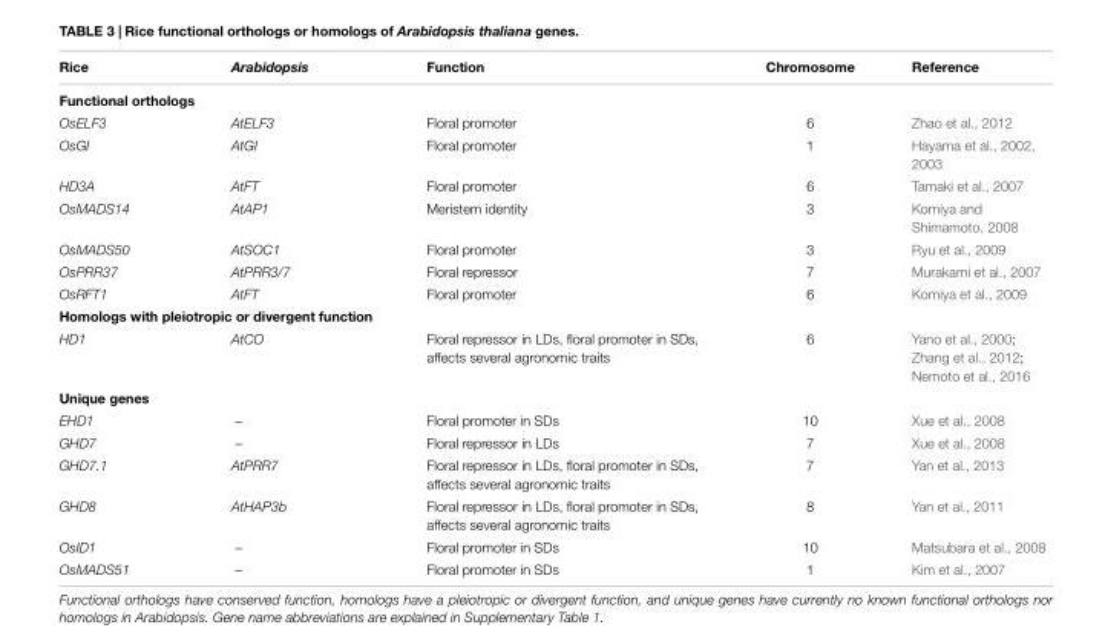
<table><thead><tr><td>Rice</td><td>Arabidopsis</td><td>Function</td><td>Chromosome</td><td>Reference</td></tr></thead><tbody><tr><td colspan="5">Functional orthologs</td></tr><tr><td>OsELF3</td><td>AtELF3</td><td>Floral promoter</td><td>6</td><td>Zhao et al., 2012</td></tr><tr><td>OsGI</td><td>AtGI</td><td>Floral promoter</td><td>1</td><td>Hayama et al., 2002, 2003</td></tr><tr><td>HD3A</td><td>AtFT</td><td>Floral promoter</td><td>6</td><td>Tamaki et al., 2007</td></tr><tr><td>OsMADS14</td><td>AtAP1</td><td>Meristem identity</td><td>3</td><td>Komiya and Shimamoto, 2008</td></tr><tr><td>OsMADS50</td><td>AtSOC1</td><td>Floral promoter</td><td>3</td><td>Ryu et al., 2009</td></tr><tr><td>OsPRR37</td><td>AtPRR3/7</td><td>Floral repressor</td><td>7</td><td>Murakami et al., 2007</td></tr><tr><td>OsRFT1</td><td>AtFT</td><td>Floral promoter</td><td>6</td><td>Komiya et al., 2009</td></tr><tr><td colspan="5">Homologs with pleiotropic or divergent function</td></tr><tr><td>HD1</td><td>AtCO</td><td>Floral repressor in LDs, floral promoter in SDs, affects several agronomic traits</td><td>6</td><td>Yano et al., 2000; Zhang et al., 2012; Nemoto et al., 2016</td></tr><tr><td colspan="5">Unique genes</td></tr><tr><td>EHD1</td><td>–</td><td>Floral promoter in SDs</td><td>10</td><td>Xue et al., 2008</td></tr><tr><td>GHD7</td><td>–</td><td>Floral repressor in LDs</td><td>7</td><td>Xue et al., 2008</td></tr><tr><td>GHD7.1</td><td>AtPRR7</td><td>Floral repressor in LDs, floral promoter in SDs, affects several agronomic traits</td><td>7</td><td>Yan et al., 2013</td></tr><tr><td>GHD8</td><td>AtHAP3b</td><td>Floral repressor in LDs, floral promoter in SDs, affects several agronomic traits</td><td>8</td><td>Yan et al., 2011</td></tr><tr><td>OsID1</td><td>–</td><td>Floral promoter in SDs</td><td>10</td><td>Matsubara et al., 2008</td></tr><tr><td>OsMADS51</td><td>–</td><td>Floral promoter in SDs</td><td>1</td><td>Kim et al., 2007</td></tr></tbody></table>